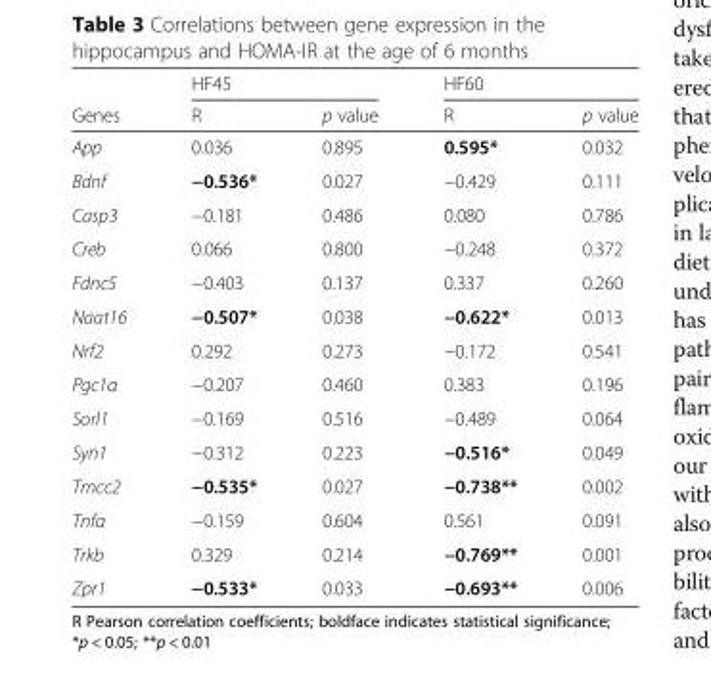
<table><thead><tr><td rowspan="2">Genes</td><td colspan="2">HF45</td><td colspan="2">HF60</td></tr><tr><td>R</td><td>p value</td><td>R</td><td>p value</td></tr></thead><tbody><tr><td>App</td><td>0.036</td><td>0.895</td><td>0.595*</td><td>0.032</td></tr><tr><td>Bdnf</td><td>−0.536*</td><td>0.027</td><td>−0.429</td><td>0.111</td></tr><tr><td>Casp3</td><td>−0.181</td><td>0.486</td><td>0.080</td><td>0.786</td></tr><tr><td>Creb</td><td>0.066</td><td>0.800</td><td>−0.248</td><td>0.372</td></tr><tr><td>Fdnc5</td><td>−0.403</td><td>0.137</td><td>0.337</td><td>0.260</td></tr><tr><td>Naat16</td><td>−0.507*</td><td>0.038</td><td>−0.622*</td><td>0.013</td></tr><tr><td>Nrf2</td><td>0.292</td><td>0.273</td><td>−0.172</td><td>0.541</td></tr><tr><td>Pgc1α</td><td>−0.207</td><td>0.460</td><td>0.383</td><td>0.196</td></tr><tr><td>Sorl1</td><td>−0.169</td><td>0.516</td><td>−0.489</td><td>0.064</td></tr><tr><td>Syn1</td><td>−0.312</td><td>0.223</td><td>−0.516*</td><td>0.049</td></tr><tr><td>Tmcc2</td><td>−0.535*</td><td>0.027</td><td>−0.738**</td><td>0.002</td></tr><tr><td>Tnfα</td><td>−0.159</td><td>0.604</td><td>0.561</td><td>0.091</td></tr><tr><td>Trkb</td><td>0.329</td><td>0.214</td><td>−0.769**</td><td>0.001</td></tr><tr><td>Zpr1</td><td>−0.533*</td><td>0.033</td><td>−0.693**</td><td>0.006</td></tr></tbody></table>